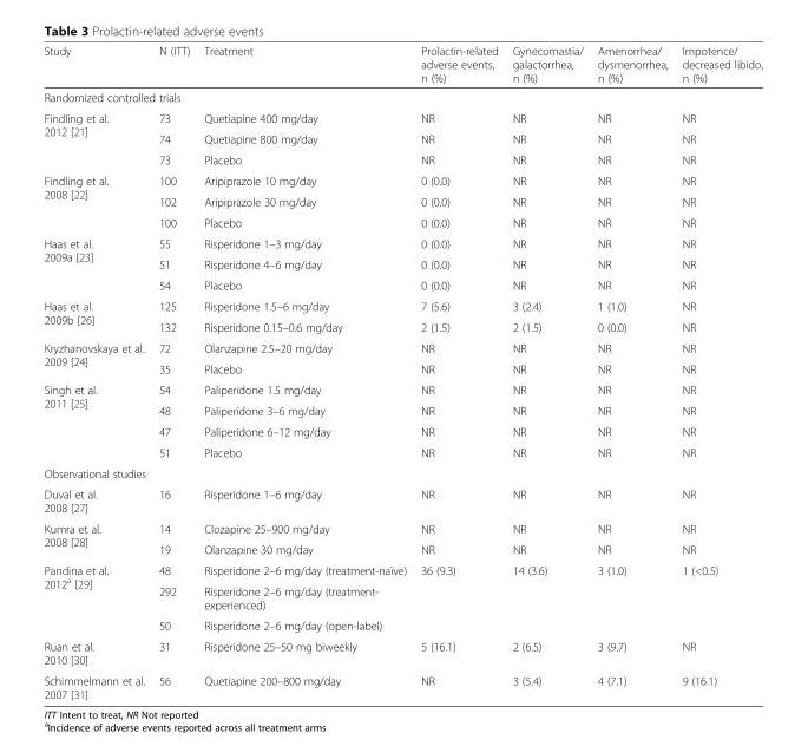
<table><thead><tr><td>Study</td><td>N (ITT)</td><td>Treatment</td><td>Prolactin-related adverse events, n (%)</td><td>Gynecomastia/ galactorrhea, n (%)</td><td>Amenorrhea/ dysmenorrhea, n (%)</td><td>Impotence/ decreased libido, n (%)</td></tr></thead><tbody><tr><td colspan="7">Randomized controlled trials</td></tr><tr><td rowspan="3">Findling et al. 2012 [21]</td><td>73</td><td>Quetiapine 400 mg/day</td><td>NR</td><td>NR</td><td>NR</td><td>NR</td></tr><tr><td>74</td><td>Quetiapine 800 mg/day</td><td>NR</td><td>NR</td><td>NR</td><td>NR</td></tr><tr><td>73</td><td>Placebo</td><td>NR</td><td>NR</td><td>NR</td><td>NR</td></tr><tr><td rowspan="3">Findling et al. 2008 [22]</td><td>100</td><td>Aripiprazole 10 mg/day</td><td>0 (0.0)</td><td>NR</td><td>NR</td><td>NR</td></tr><tr><td>102</td><td>Aripiprazole 30 mg/day</td><td>0 (0.0)</td><td>NR</td><td>NR</td><td>NR</td></tr><tr><td>100</td><td>Placebo</td><td>0 (0.0)</td><td>NR</td><td>NR</td><td>NR</td></tr><tr><td rowspan="3">Haas et al. 2009a [23]</td><td>55</td><td>Risperidone 1–3 mg/day</td><td>0 (0.0)</td><td>NR</td><td>NR</td><td>NR</td></tr><tr><td>51</td><td>Risperidone 4–6 mg/day</td><td>0 (0.0)</td><td>NR</td><td>NR</td><td>NR</td></tr><tr><td>54</td><td>Placebo</td><td>0 (0.0)</td><td>NR</td><td>NR</td><td>NR</td></tr><tr><td rowspan="2">Haas et al. 2009b [26]</td><td>125</td><td>Risperidone 1.5–6 mg/day</td><td>7 (5.6)</td><td>3 (2.4)</td><td>1 (1.0)</td><td>NR</td></tr><tr><td>132</td><td>Risperidone 0.15–0.6 mg/day</td><td>2 (1.5)</td><td>2 (1.5)</td><td>0 (0.0)</td><td>NR</td></tr><tr><td rowspan="2">Kryzhanovskaya et al. 2009 [24]</td><td>72</td><td>Olanzapine 2.5–20 mg/day</td><td>NR</td><td>NR</td><td>NR</td><td>NR</td></tr><tr><td>35</td><td>Placebo</td><td>NR</td><td>NR</td><td>NR</td><td>NR</td></tr><tr><td rowspan="4">Singh et al. 2011 [25]</td><td>54</td><td>Paliperidone 1.5 mg/day</td><td>NR</td><td>NR</td><td>NR</td><td>NR</td></tr><tr><td>48</td><td>Paliperidone 3–6 mg/day</td><td>NR</td><td>NR</td><td>NR</td><td>NR</td></tr><tr><td>47</td><td>Paliperidone 6–12 mg/day</td><td>NR</td><td>NR</td><td>NR</td><td>NR</td></tr><tr><td>51</td><td>Placebo</td><td>NR</td><td>NR</td><td>NR</td><td>NR</td></tr><tr><td colspan="7">Observational studies</td></tr><tr><td>Duval et al. 2008 [27]</td><td>16</td><td>Risperidone 1–6 mg/day</td><td>NR</td><td>NR</td><td>NR</td><td>NR</td></tr><tr><td rowspan="2">Kumra et al. 2008 [28]</td><td>14</td><td>Clozapine 25–900 mg/day</td><td>NR</td><td>NR</td><td>NR</td><td>NR</td></tr><tr><td>19</td><td>Olanzapine 30 mg/day</td><td>NR</td><td>NR</td><td>NR</td><td>NR</td></tr><tr><td rowspan="3">Pandina et al. 2012<sup>a</sup> [29]</td><td>48</td><td>Risperidone 2–6 mg/day (treatment-naïve)</td><td rowspan="3">36 (9.3)</td><td rowspan="3">14 (3.6)</td><td rowspan="3">3 (1.0)</td><td rowspan="3">1 (&lt;0.5)</td></tr><tr><td>292</td><td>Risperidone 2–6 mg/day (treatment- experienced)</td></tr><tr><td>50</td><td>Risperidone 2–6 mg/day (open-label)</td></tr><tr><td>Ruan et al. 2010 [30]</td><td>31</td><td>Risperidone 25–50 mg biweekly</td><td>5 (16.1)</td><td>2 (6.5)</td><td>3 (9.7)</td><td>NR</td></tr><tr><td>Schimmelmann et al. 2007 [31]</td><td>56</td><td>Quetiapine 200–800 mg/day</td><td>NR</td><td>3 (5.4)</td><td>4 (7.1)</td><td>9 (16.1)</td></tr></tbody></table>